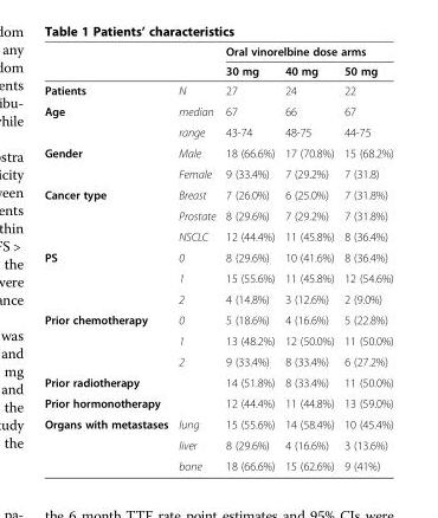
<table><thead><tr><td rowspan="2"></td><td rowspan="2"></td><td colspan="3">Oral vinorelbine dose arms</td></tr><tr><td>30 mg</td><td>40 mg</td><td>50 mg</td></tr></thead><tbody><tr><td>Patients</td><td>N</td><td>27</td><td>24</td><td>22</td></tr><tr><td rowspan="2">Age</td><td>median</td><td>67</td><td>66</td><td>67</td></tr><tr><td>range</td><td>43-74</td><td>48-75</td><td>44-75</td></tr><tr><td rowspan="2">Gender</td><td>Male</td><td>18 (66.6%)</td><td>17 (70.8%)</td><td>15 (68.2%)</td></tr><tr><td>Female</td><td>9 (33.4%)</td><td>7 (29.2%)</td><td>7 (31.8)</td></tr><tr><td rowspan="3">Cancer type</td><td>Breast</td><td>7 (26.0%)</td><td>6 (25.0%)</td><td>7 (31.8%)</td></tr><tr><td>Prostate</td><td>8 (29.6%)</td><td>7 (29.2%)</td><td>7 (31.8%)</td></tr><tr><td>NSCLC</td><td>12 (44.4%)</td><td>11 (45.8%)</td><td>8 (36.4%)</td></tr><tr><td rowspan="3">PS</td><td>0</td><td>8 (29.6%)</td><td>10 (41.6%)</td><td>8 (36.4%)</td></tr><tr><td>1</td><td>15 (55.6%)</td><td>11 (45.8%)</td><td>12 (54.6%)</td></tr><tr><td>2</td><td>4 (14.8%)</td><td>3 (12.6%)</td><td>2 (9.0%)</td></tr><tr><td rowspan="3">Prior chemotherapy</td><td>0</td><td>5 (18.6%)</td><td>4 (16.6%)</td><td>5 (22.8%)</td></tr><tr><td>1</td><td>13 (48.2%)</td><td>12 (50.0%)</td><td>11 (50.0%)</td></tr><tr><td>2</td><td>9 (33.4%)</td><td>8 (33.4%)</td><td>6 (27.2%)</td></tr><tr><td>Prior radiotherapy</td><td></td><td>14 (51.8%)</td><td>8 (33.4%)</td><td>11 (50.0%)</td></tr><tr><td>Prior hormonotherapy</td><td></td><td>12 (44.4%)</td><td>11 (44.8%)</td><td>13 (59.0%)</td></tr><tr><td rowspan="3">Organs with metastases</td><td>lung</td><td>15 (55.6%)</td><td>14 (58.4%)</td><td>10 (45.4%)</td></tr><tr><td>liver</td><td>8 (29.6%)</td><td>4 (16.6%)</td><td>3 (13.6%)</td></tr><tr><td>bone</td><td>18 (66.6%)</td><td>15 (62.6%)</td><td>9 (41%)</td></tr></tbody></table>